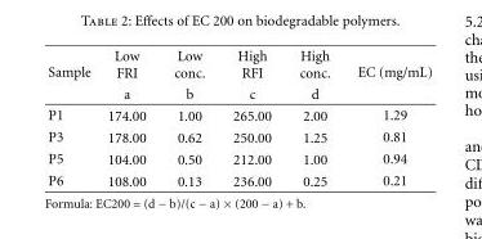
<table><thead><tr><td rowspan="2">Sample</td><td rowspan="2">Low FRI a</td><td rowspan="2">Low conc. b</td><td rowspan="2">High RFI c</td><td rowspan="2">High conc. d</td><td rowspan="2">EC (mg/mL)</td></tr><tr></tr></thead><tbody><tr><td>P1</td><td>174.00</td><td>1.00</td><td>265.00</td><td>2.00</td><td>1.29</td></tr><tr><td>P3</td><td>178.00</td><td>0.62</td><td>250.00</td><td>1.25</td><td>0.81</td></tr><tr><td>P5</td><td>104.00</td><td>0.50</td><td>212.00</td><td>1.00</td><td>0.94</td></tr><tr><td>P6</td><td>108.00</td><td>0.13</td><td>236.00</td><td>0.25</td><td>0.21</td></tr></tbody></table>